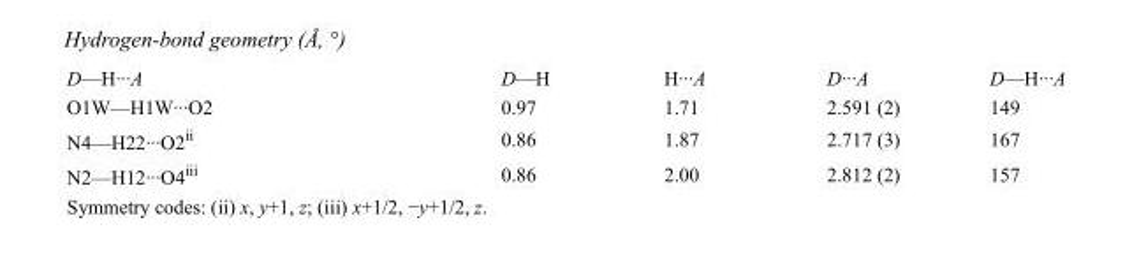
<table><tbody><tr><td>D—H···A</td><td>D—H</td><td>H···A</td><td>D···A</td><td>D—H···A</td></tr><tr><td>O1W—H1W···O2</td><td>0.97</td><td>1.71</td><td>2.591 (2)</td><td>149</td></tr><tr><td>N4—H22···O2<sup>ii</sup></td><td>0.86</td><td>1.87</td><td>2.717 (3)</td><td>167</td></tr><tr><td>N2—H12···O4<sup>iii</sup></td><td>0.86</td><td>2.00</td><td>2.812 (2)</td><td>157</td></tr></tbody></table>